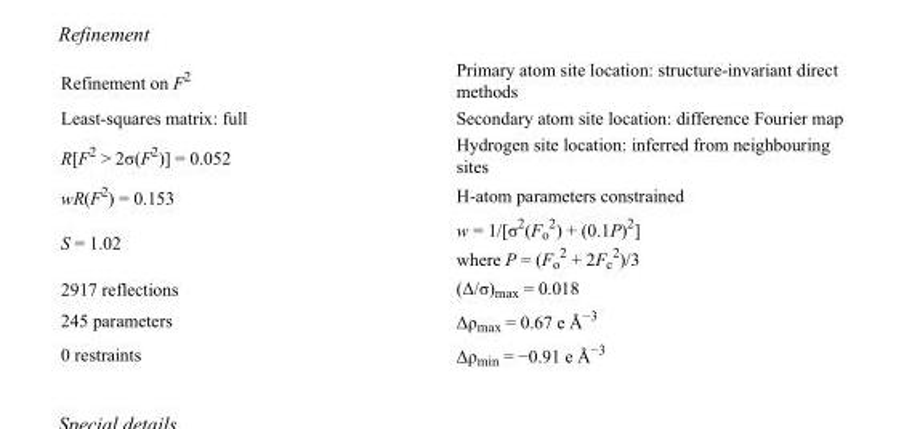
<table><tbody><tr><td>Refinement on F<sup>2</sup></td><td>Primary atom site location: structure-invariant direct methods</td></tr><tr><td>Least-squares matrix: full</td><td>Secondary atom site location: difference Fourier map</td></tr><tr><td>R[F<sup>2</sup> &gt; 2σ(F<sup>2</sup>)] = 0.052</td><td>Hydrogen site location: inferred from neighbouring sites</td></tr><tr><td>wR(F<sup>2</sup>) = 0.153</td><td>H-atom parameters constrained</td></tr><tr><td>S = 1.02</td><td>w = 1/[σ<sup>2</sup>(F<sub>o</sub> <sup>2</sup>) + (0.1P)<sup>2</sup>] where P = (F<sub>o</sub> <sup>2</sup> + 2F<sub>c</sub> <sup>2</sup>)/3</td></tr><tr><td>2917 reflections</td><td>(Δ/σ)<sub>max</sub> = 0.018</td></tr><tr><td>245 parameters</td><td>Δρ<sub>max</sub> = 0.67 e Å<sup>−3</sup></td></tr><tr><td>0 restraints</td><td>Δρ<sub>min</sub> = −0.91 e Å<sup>−3</sup></td></tr></tbody></table>